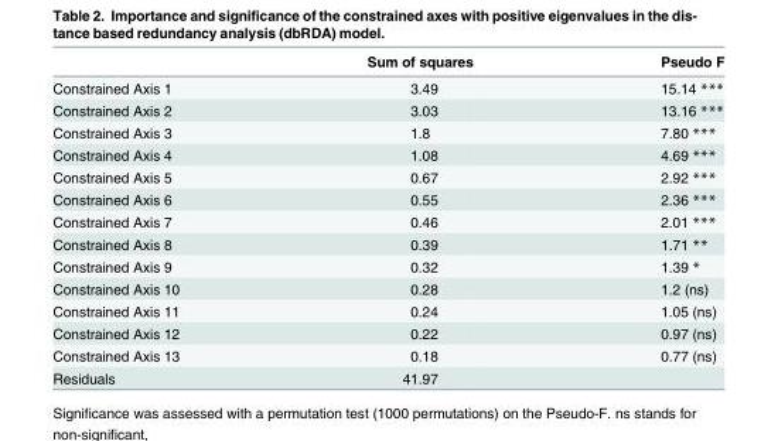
<table><thead><tr><td></td><td>Sum of squares</td><td>Pseudo F</td></tr></thead><tbody><tr><td>Constrained Axis 1</td><td>3.49</td><td>15.14 ***</td></tr><tr><td>Constrained Axis 2</td><td>3.03</td><td>13.16 ***</td></tr><tr><td>Constrained Axis 3</td><td>1.8</td><td>7.80 ***</td></tr><tr><td>Constrained Axis 4</td><td>1.08</td><td>4.69 ***</td></tr><tr><td>Constrained Axis 5</td><td>0.67</td><td>2.92 ***</td></tr><tr><td>Constrained Axis 6</td><td>0.55</td><td>2.36 ***</td></tr><tr><td>Constrained Axis 7</td><td>0.46</td><td>2.01 ***</td></tr><tr><td>Constrained Axis 8</td><td>0.39</td><td>1.71 **</td></tr><tr><td>Constrained Axis 9</td><td>0.32</td><td>1.39 *</td></tr><tr><td>Constrained Axis 10</td><td>0.28</td><td>1.2 (ns)</td></tr><tr><td>Constrained Axis 11</td><td>0.24</td><td>1.05 (ns)</td></tr><tr><td>Constrained Axis 12</td><td>0.22</td><td>0.97 (ns)</td></tr><tr><td>Constrained Axis 13</td><td>0.18</td><td>0.77 (ns)</td></tr><tr><td>Residuals</td><td>41.97</td><td></td></tr></tbody></table>